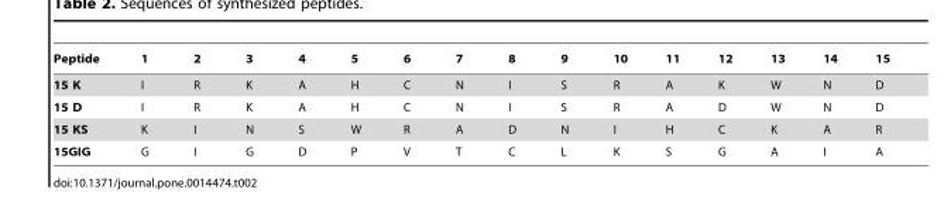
<table><thead><tr><td>Peptide</td><td>1</td><td>2</td><td>3</td><td>4</td><td>5</td><td>6</td><td>7</td><td>8</td><td>9</td><td>10</td><td>11</td><td>12</td><td>13</td><td>14</td><td>15</td></tr></thead><tbody><tr><td>15 K</td><td>I</td><td>R</td><td>K</td><td>A</td><td>H</td><td>C</td><td>N</td><td>I</td><td>S</td><td>R</td><td>A</td><td>K</td><td>W</td><td>N</td><td>D</td></tr><tr><td>15 D</td><td>I</td><td>R</td><td>K</td><td>A</td><td>H</td><td>C</td><td>N</td><td>I</td><td>S</td><td>R</td><td>A</td><td>D</td><td>W</td><td>N</td><td>D</td></tr><tr><td>15 KS</td><td>K</td><td>I</td><td>N</td><td>S</td><td>W</td><td>R</td><td>A</td><td>D</td><td>N</td><td>I</td><td>H</td><td>C</td><td>K</td><td>A</td><td>R</td></tr><tr><td>15GIG</td><td>G</td><td>I</td><td>G</td><td>D</td><td>P</td><td>V</td><td>T</td><td>C</td><td>L</td><td>K</td><td>S</td><td>G</td><td>A</td><td>I</td><td>A</td></tr></tbody></table>